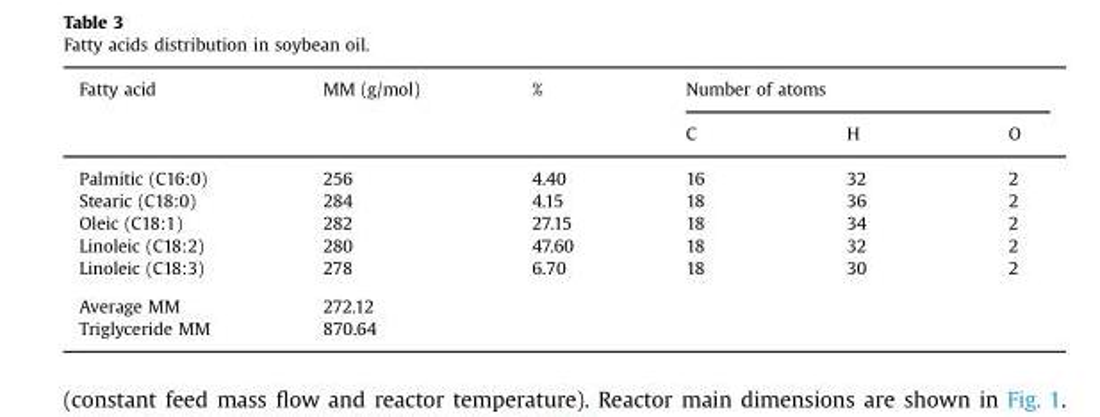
<table><thead><tr><td rowspan="2">Fatty acid</td><td rowspan="2">MM (g/mol)</td><td rowspan="2">%</td><td colspan="3">Number of atoms</td></tr><tr><td>C</td><td>H</td><td>O</td></tr></thead><tbody><tr><td>Palmitic (C16:0)</td><td>256</td><td>4.40</td><td>16</td><td>32</td><td>2</td></tr><tr><td>Stearic (C18:0)</td><td>284</td><td>4.15</td><td>18</td><td>36</td><td>2</td></tr><tr><td>Oleic (C18:1)</td><td>282</td><td>27.15</td><td>18</td><td>34</td><td>2</td></tr><tr><td>Linoleic (C18:2)</td><td>280</td><td>47.60</td><td>18</td><td>32</td><td>2</td></tr><tr><td>Linoleic (C18:3)</td><td>278</td><td>6.70</td><td>18</td><td>30</td><td>2</td></tr><tr><td>Average MM</td><td>272.12</td><td></td><td></td><td></td><td></td></tr><tr><td>Triglyceride MM</td><td>870.64</td><td></td><td></td><td></td><td></td></tr></tbody></table>